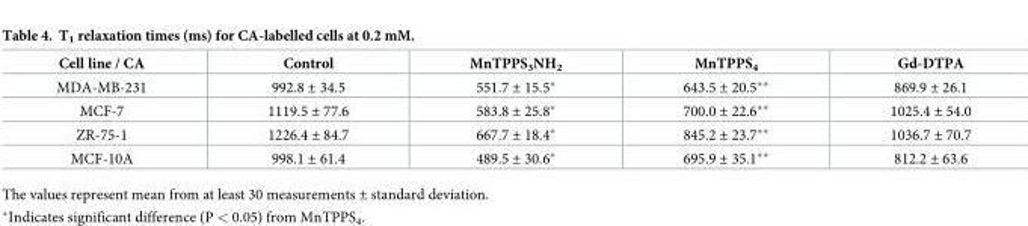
<table><thead><tr><td>Cell line / CA</td><td>Control</td><td>MnTPPS<sub>3</sub>NH<sub>2</sub></td><td>MnTPPS<sub>4</sub></td><td>Gd-DTPA</td></tr></thead><tbody><tr><td>MDA-MB-231</td><td>992.8 ± 34.5</td><td>551.7 ± 15.5*</td><td>643.5 ± 20.5**</td><td>869.9 ± 26.1</td></tr><tr><td>MCF-7</td><td>1119.5 ± 77.6</td><td>583.8 ± 25.8*</td><td>700.0 ± 22.6**</td><td>1025.4 ± 54.0</td></tr><tr><td>ZR-75-1</td><td>1226.4 ± 84.7</td><td>667.7 ± 18.4*</td><td>845.2 ± 23.7**</td><td>1036.7 ± 70.7</td></tr><tr><td>MCF-10A</td><td>998.1 ± 61.4</td><td>489.5 ± 30.6*</td><td>695.9 ± 35.1**</td><td>812.2 ± 63.6</td></tr></tbody></table>